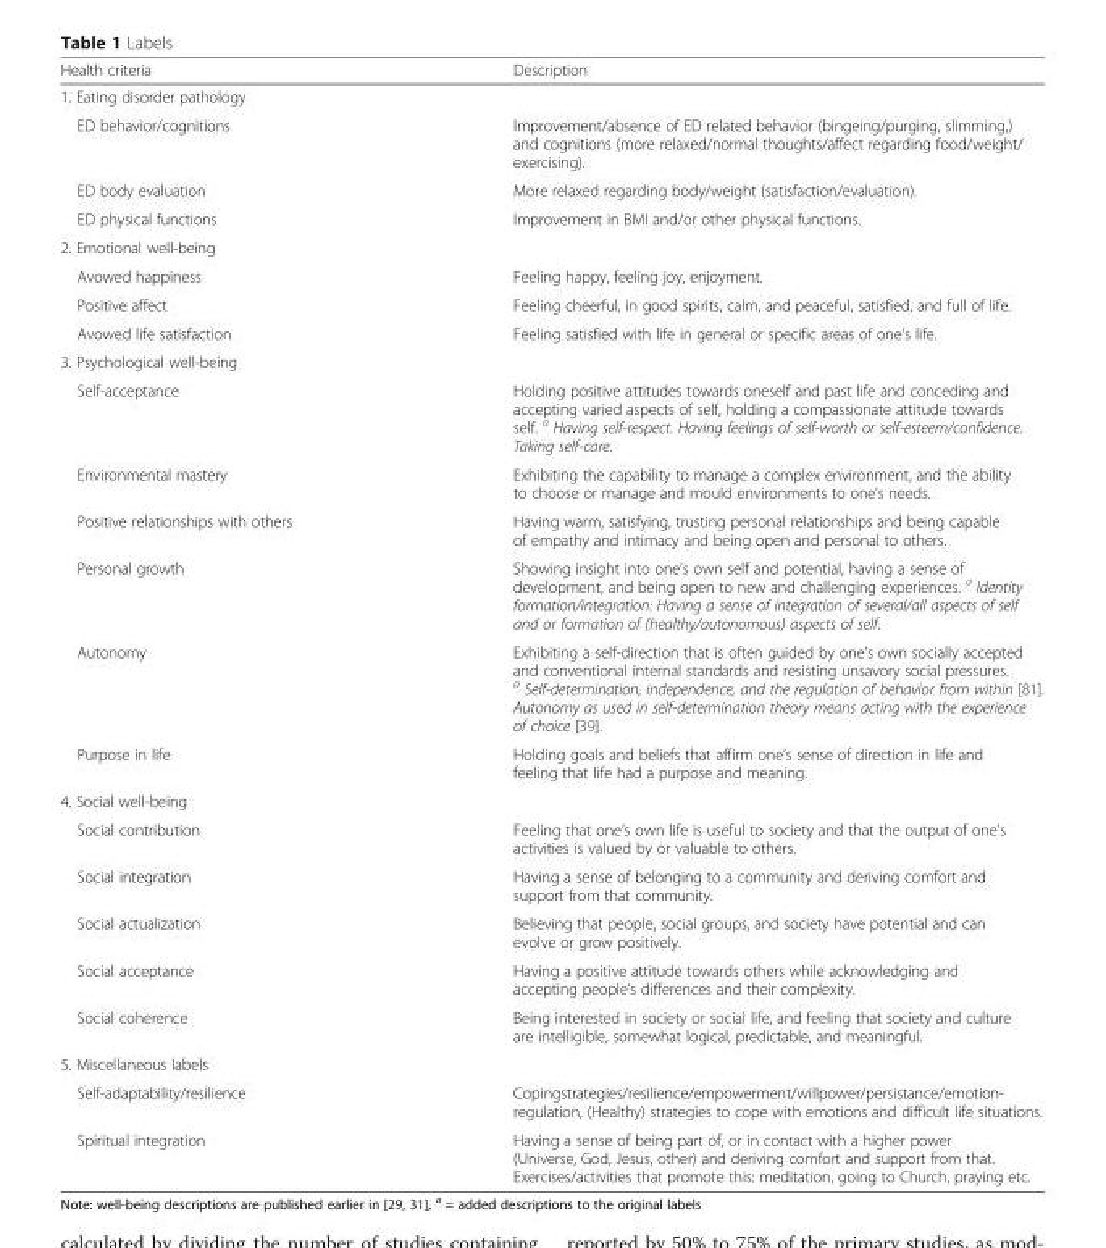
<table><thead><tr><td>Health criteria</td><td>Description</td></tr></thead><tbody><tr><td colspan="2">1. Eating disorder pathology</td></tr><tr><td>ED behavior/cognitions</td><td>Improvement/absence of ED related behavior (bingeing/purging, slimming,) and cognitions (more relaxed/normal thoughts/affect regarding food/weight/ exercising).</td></tr><tr><td>ED body evaluation</td><td>More relaxed regarding body/weight (satisfaction/evaluation).</td></tr><tr><td>ED physical functions</td><td>Improvement in BMI and/or other physical functions.</td></tr><tr><td colspan="2">2. Emotional well-being</td></tr><tr><td>Avowed happiness</td><td>Feeling happy, feeling joy, enjoyment.</td></tr><tr><td>Positive affect</td><td>Feeling cheerful, in good spirits, calm, and peaceful, satisfied, and full of life.</td></tr><tr><td>Avowed life satisfaction</td><td>Feeling satisfied with life in general or specific areas of one’s life.</td></tr><tr><td colspan="2">3. Psychological well-being</td></tr><tr><td>Self-acceptance</td><td>Holding positive attitudes towards oneself and past life and conceding and accepting varied aspects of self, holding a compassionate attitude towards self. <sup>a</sup> Having self-respect. Having feelings of self-worth or self-esteem/confidence. Taking self-care.</td></tr><tr><td>Environmental mastery</td><td>Exhibiting the capability to manage a complex environment, and the ability to choose or manage and mould environments to one’s needs.</td></tr><tr><td>Positive relationships with others</td><td>Having warm, satisfying, trusting personal relationships and being capable of empathy and intimacy and being open and personal to others.</td></tr><tr><td>Personal growth</td><td>Showing insight into one’s own self and potential, having a sense of development, and being open to new and challenging experiences. <sup>a</sup> Identity formation/integration: Having a sense of integration of several/all aspects of self and or formation of (healthy/autonomous) aspects of self.</td></tr><tr><td>Autonomy</td><td>Exhibiting a self-direction that is often guided by one’s own socially accepted and conventional internal standards and resisting unsavory social pressures. <sup>a</sup> Self-determination, independence, and the regulation of behavior from within [81]. Autonomy as used in self-determination theory means acting with the experience of choice [39].</td></tr><tr><td>Purpose in life</td><td>Holding goals and beliefs that affirm one’s sense of direction in life and feeling that life had a purpose and meaning.</td></tr><tr><td colspan="2">4. Social well-being</td></tr><tr><td>Social contribution</td><td>Feeling that one’s own life is useful to society and that the output of one’s activities is valued by or valuable to others.</td></tr><tr><td>Social integration</td><td>Having a sense of belonging to a community and deriving comfort and support from that community.</td></tr><tr><td>Social actualization</td><td>Believing that people, social groups, and society have potential and can evolve or grow positively.</td></tr><tr><td>Social acceptance</td><td>Having a positive attitude towards others while acknowledging and accepting people’s differences and their complexity.</td></tr><tr><td>Social coherence</td><td>Being interested in society or social life, and feeling that society and culture are intelligible, somewhat logical, predictable, and meaningful.</td></tr><tr><td colspan="2">5. Miscellaneous labels</td></tr><tr><td>Self-adaptability/resilience</td><td>Copingstrategies/resilience/empowerment/willpower/persistance/emotion- regulation, (Healthy) strategies to cope with emotions and difficult life situations.</td></tr><tr><td>Spiritual integration</td><td>Having a sense of being part of, or in contact with a higher power (Universe, God, Jesus, other) and deriving comfort and support from that. Exercises/activities that promote this: meditation, going to Church, praying etc.</td></tr></tbody></table>